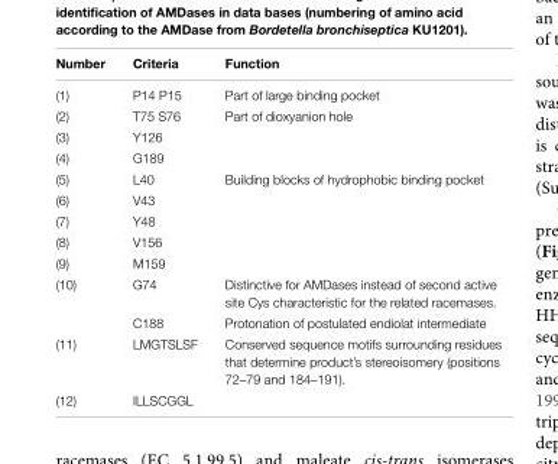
<table><thead><tr><td>Number</td><td>Criteria</td><td>Function</td></tr></thead><tbody><tr><td>(1)</td><td>P14 P15</td><td>Part of large binding pocket</td></tr><tr><td>(2)</td><td>T75 S76</td><td>Part of dioxyanion hole</td></tr><tr><td>(3)</td><td>Y126</td><td></td></tr><tr><td>(4)</td><td>G189</td><td></td></tr><tr><td>(5)</td><td>L40</td><td>Building blocks of hydrophobic binding pocket</td></tr><tr><td>(6)</td><td>V43</td><td></td></tr><tr><td>(7)</td><td>Y48</td><td></td></tr><tr><td>(8)</td><td>V156</td><td></td></tr><tr><td>(9)</td><td>M159</td><td></td></tr><tr><td rowspan="2">(10)</td><td>G74</td><td>Distinctive for AMDases instead of second active site Cys characteristic for the related racemases.</td></tr><tr><td>C188</td><td>Protonation of postulated endiolat intermediate</td></tr><tr><td>(11)</td><td>LMGTSLSF</td><td>Conserved sequence motifs surrounding residues that determine product’s stereoisomery (positions 72–79 and 184–191).</td></tr><tr><td>(12)</td><td>ILLSCGGL</td><td></td></tr></tbody></table>